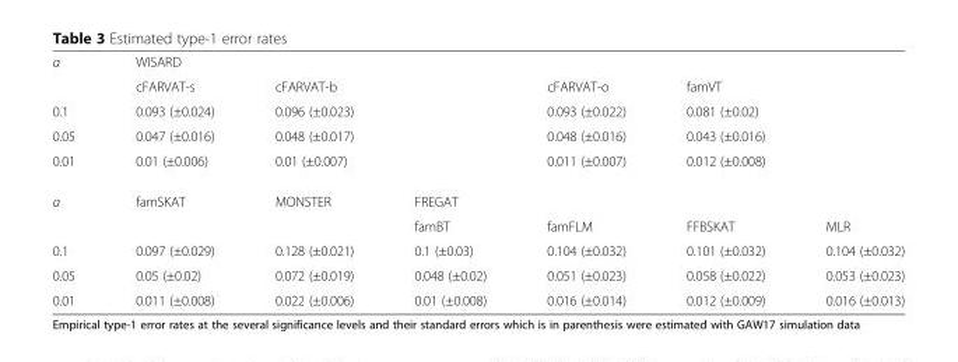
<table><tbody><tr><td rowspan="2">α</td><td colspan="6">WISARD</td></tr><tr><td>cFARVAT-s</td><td colspan="2">cFARVAT-b</td><td>cFARVAT-o</td><td colspan="2">famVT</td></tr><tr><td>0.1</td><td>0.093 (±0.024)</td><td colspan="2">0.096 (±0.023)</td><td>0.093 (±0.022)</td><td colspan="2">0.081 (±0.02)</td></tr><tr><td>0.05</td><td>0.047 (±0.016)</td><td colspan="2">0.048 (±0.017)</td><td>0.048 (±0.016)</td><td colspan="2">0.043 (±0.016)</td></tr><tr><td>0.01</td><td>0.01 (±0.006)</td><td colspan="2">0.01 (±0.007)</td><td>0.011 (±0.007)</td><td colspan="2">0.012 (±0.008)</td></tr><tr><td rowspan="2">α</td><td rowspan="2">famSKAT</td><td rowspan="2">MONSTER</td><td colspan="4">FREGAT</td></tr><tr><td>famBT</td><td>famFLM</td><td>FFBSKAT</td><td>MLR</td></tr><tr><td>0.1</td><td>0.097 (±0.029)</td><td>0.128 (±0.021)</td><td>0.1 (±0.03)</td><td>0.104 (±0.032)</td><td>0.101 (±0.032)</td><td>0.104 (±0.032)</td></tr><tr><td>0.05</td><td>0.05 (±0.02)</td><td>0.072 (±0.019)</td><td>0.048 (±0.02)</td><td>0.051 (±0.023)</td><td>0.058 (±0.022)</td><td>0.053 (±0.023)</td></tr><tr><td>0.01</td><td>0.011 (±0.008)</td><td>0.022 (±0.006)</td><td>0.01 (±0.008)</td><td>0.016 (±0.014)</td><td>0.012 (±0.009)</td><td>0.016 (±0.013)</td></tr></tbody></table>